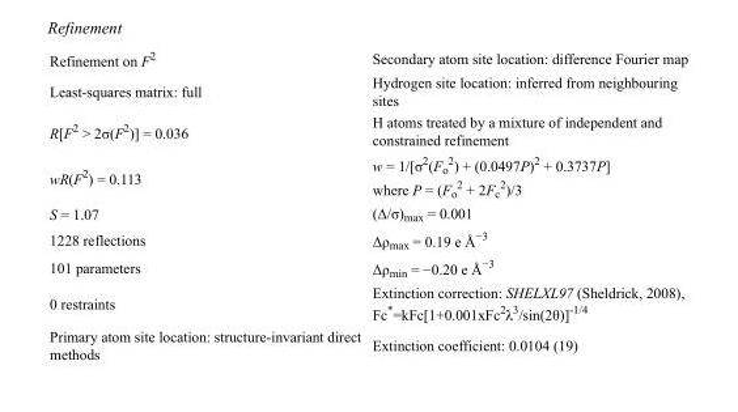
<table><tbody><tr><td>Refinement on F<sup>2</sup></td><td>Secondary atom site location: difference Fourier map</td></tr><tr><td>Least-squares matrix: full</td><td>Hydrogen site location: inferred from neighbouring sites</td></tr><tr><td>R[F<sup>2</sup> &gt; 2σ(F<sup>2</sup>)] = 0.036</td><td>H atoms treated by a mixture of independent and constrained refinement</td></tr><tr><td>wR(F<sup>2</sup>) = 0.113</td><td>w = 1/[σ<sup>2</sup>(F<sub>o</sub> <sup>2</sup>) + (0.0497P)<sup>2</sup> + 0.3737P] where P = (F<sub>o</sub> <sup>2</sup> + 2F<sub>c</sub> <sup>2</sup>)/3</td></tr><tr><td>S = 1.07</td><td>(Δ/σ)<sub>max</sub> = 0.001</td></tr><tr><td>1228 reflections</td><td>Δρ<sub>max</sub> = 0.19 e Å<sup>−3</sup></td></tr><tr><td>101 parameters</td><td>Δρ<sub>min</sub> = −0.20 e Å<sup>−3</sup></td></tr><tr><td>0 restraints</td><td>Extinction correction: SHELXL97 (Sheldrick, 2008), Fc*=kFc[1+0.001xFc<sup>2</sup>λ<sup>3</sup>/sin(2θ)]<sup>-1/4</sup></td></tr><tr><td>Primary atom site location: structure-invariant direct methods</td><td>Extinction coefficient: 0.0104 (19)</td></tr></tbody></table>